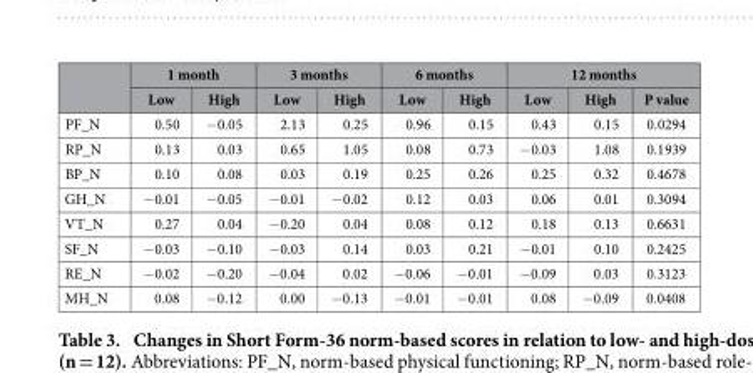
<table><thead><tr><td rowspan="2"></td><td colspan="2">1 month</td><td colspan="2">3 months</td><td colspan="2">6 months</td><td colspan="3">12 months</td></tr><tr><td>Low</td><td>High</td><td>Low</td><td>High</td><td>Low</td><td>High</td><td>Low</td><td>High</td><td>P value</td></tr></thead><tbody><tr><td>PF_N</td><td>0.50</td><td>− 0.05</td><td>2.13</td><td>0.25</td><td>0.96</td><td>0.15</td><td>0.43</td><td>0.15</td><td>0.0294</td></tr><tr><td>RP_N</td><td>0.13</td><td>0.03</td><td>0.65</td><td>1.05</td><td>0.08</td><td>0.73</td><td>− 0.03</td><td>1.08</td><td>0.1939</td></tr><tr><td>BP_N</td><td>0.10</td><td>0.08</td><td>0.03</td><td>0.19</td><td>0.25</td><td>0.26</td><td>0.25</td><td>0.32</td><td>0.4678</td></tr><tr><td>GH_N</td><td>− 0.01</td><td>− 0.05</td><td>− 0.01</td><td>− 0.02</td><td>0.12</td><td>0.03</td><td>0.06</td><td>0.01</td><td>0.3094</td></tr><tr><td>VT_N</td><td>0.27</td><td>0.04</td><td>− 0.20</td><td>0.04</td><td>0.08</td><td>0.12</td><td>0.18</td><td>0.13</td><td>0.6631</td></tr><tr><td>SF_N</td><td>− 0.03</td><td>− 0.10</td><td>− 0.03</td><td>0.14</td><td>0.03</td><td>0.21</td><td>− 0.01</td><td>0.10</td><td>0.2425</td></tr><tr><td>RE_N</td><td>− 0.02</td><td>− 0.20</td><td>− 0.04</td><td>0.02</td><td>− 0.06</td><td>− 0.01</td><td>− 0.09</td><td>0.03</td><td>0.3123</td></tr><tr><td>MH_N</td><td>0.08</td><td>− 0.12</td><td>0.00</td><td>− 0.13</td><td>− 0.01</td><td>− 0.01</td><td>0.08</td><td>− 0.09</td><td>0.0408</td></tr></tbody></table>